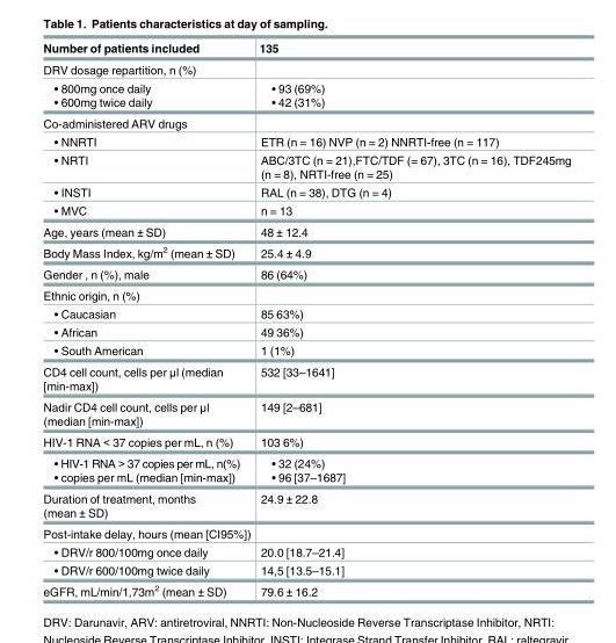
<table><thead><tr><td>Number of patients included</td><td>135</td></tr></thead><tbody><tr><td colspan="2">DRV dosage repartition, n (%)</td></tr><tr><td>• 800mg once daily • 600mg twice daily</td><td>• 93 (69%) • 42 (31%)</td></tr><tr><td colspan="2">Co-administered ARV drugs</td></tr><tr><td>• NNRTI</td><td>ETR (n = 16) NVP (n = 2) NNRTI-free (n = 117)</td></tr><tr><td>• NRTI</td><td>ABC/3TC (n = 21),FTC/TDF (= 67), 3TC (n = 16), TDF245mg (n = 8), NRTI-free (n = 25)</td></tr><tr><td>• INSTI</td><td>RAL (n = 38), DTG (n = 4)</td></tr><tr><td>• MVC</td><td>n = 13</td></tr><tr><td>Age, years (mean ± SD)</td><td>48 ± 12.4</td></tr><tr><td>Body Mass Index, kg/m<sup>2</sup> (mean ± SD)</td><td>25.4 ± 4.9</td></tr><tr><td>Gender , n (%), male</td><td>86 (64%)</td></tr><tr><td colspan="2">Ethnic origin, n (%)</td></tr><tr><td>• Caucasian</td><td>85 63%)</td></tr><tr><td>• African</td><td>49 36%)</td></tr><tr><td>• South American</td><td>1 (1%)</td></tr><tr><td>CD4 cell count, cells per μl (median [min-max])</td><td>532 [33–1641]</td></tr><tr><td>Nadir CD4 cell count, cells per μl (median [min-max])</td><td>149 [2–681]</td></tr><tr><td>HIV-1 RNA &lt; 37 copies per mL, n (%)</td><td>103 6%)</td></tr><tr><td>• HIV-1 RNA &gt; 37 copies per mL, n(%) • copies per mL (median [min-max])</td><td>• 32 (24%) • 96 [37–1687]</td></tr><tr><td>Duration of treatment, months (mean ± SD)</td><td>24.9 ± 22.8</td></tr><tr><td colspan="2">Post-intake delay, hours (mean [CI95%])</td></tr><tr><td>• DRV/r 800/100mg once daily</td><td>20.0 [18.7–21.4]</td></tr><tr><td>• DRV/r 600/100mg twice daily</td><td>14,5 [13.5–15.1]</td></tr><tr><td>eGFR, mL/min/1,73m<sup>2</sup> (mean ± SD)</td><td>79.6 ± 16.2</td></tr></tbody></table>